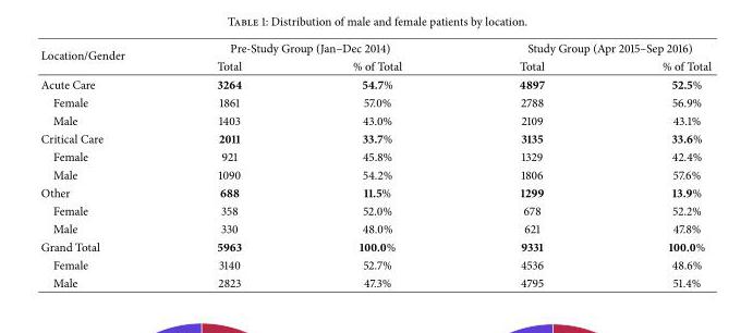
<table><thead><tr><td rowspan="2">Location/Gender</td><td colspan="2">Pre-Study Group (Jan–Dec 2014)</td><td colspan="2">Study Group (Apr 2015–Sep 2016)</td></tr><tr><td>Total</td><td>% of Total</td><td>Total</td><td>% of Total</td></tr></thead><tbody><tr><td>Acute Care</td><td>3264</td><td>54.7%</td><td>4897</td><td>52.5%</td></tr><tr><td>Female</td><td>1861</td><td>57.0%</td><td>2788</td><td>56.9%</td></tr><tr><td>Male</td><td>1403</td><td>43.0%</td><td>2109</td><td>43.1%</td></tr><tr><td>Critical Care</td><td>2011</td><td>33.7%</td><td>3135</td><td>33.6%</td></tr><tr><td>Female</td><td>921</td><td>45.8%</td><td>1329</td><td>42.4%</td></tr><tr><td>Male</td><td>1090</td><td>54.2%</td><td>1806</td><td>57.6%</td></tr><tr><td>Other</td><td>688</td><td>11.5%</td><td>1299</td><td>13.9%</td></tr><tr><td>Female</td><td>358</td><td>52.0%</td><td>678</td><td>52.2%</td></tr><tr><td>Male</td><td>330</td><td>48.0%</td><td>621</td><td>47.8%</td></tr><tr><td>Grand Total</td><td>5963</td><td>100.0%</td><td>9331</td><td>100.0%</td></tr><tr><td>Female</td><td>3140</td><td>52.7%</td><td>4536</td><td>48.6%</td></tr><tr><td>Male</td><td>2823</td><td>47.3%</td><td>4795</td><td>51.4%</td></tr></tbody></table>